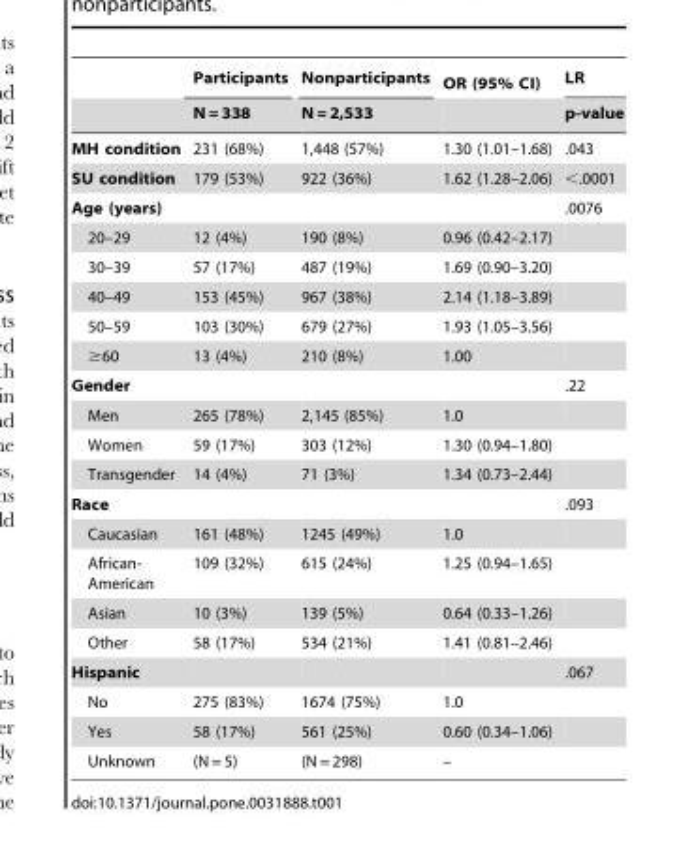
<table><thead><tr><td rowspan="2"></td><td rowspan="2">Participants N = 338</td><td rowspan="2">Nonparticipants N = 2,533</td><td rowspan="2">OR (95% CI)</td><td rowspan="2">LR p-value</td></tr><tr></tr></thead><tbody><tr><td>MH condition</td><td>231 (68%)</td><td>1,448 (57%)</td><td>1.30 (1.01–1.68)</td><td>.043</td></tr><tr><td>SU condition</td><td>179 (53%)</td><td>922 (36%)</td><td>1.62 (1.28–2.06)</td><td>&lt;.0001</td></tr><tr><td>Age (years)</td><td></td><td></td><td></td><td>.0076</td></tr><tr><td>20–29</td><td>12 (4%)</td><td>190 (8%)</td><td>0.96 (0.42–2.17)</td><td></td></tr><tr><td>30–39</td><td>57 (17%)</td><td>487 (19%)</td><td>1.69 (0.90–3.20)</td><td></td></tr><tr><td>40–49</td><td>153 (45%)</td><td>967 (38%)</td><td>2.14 (1.18–3.89)</td><td></td></tr><tr><td>50–59</td><td>103 (30%)</td><td>679 (27%)</td><td>1.93 (1.05–3.56)</td><td></td></tr><tr><td>≥60</td><td>13 (4%)</td><td>210 (8%)</td><td>1.00</td><td></td></tr><tr><td>Gender</td><td></td><td></td><td></td><td>.22</td></tr><tr><td>Men</td><td>265 (78%)</td><td>2,145 (85%)</td><td>1.0</td><td></td></tr><tr><td>Women</td><td>59 (17%)</td><td>303 (12%)</td><td>1.30 (0.94–1.80)</td><td></td></tr><tr><td>Transgender</td><td>14 (4%)</td><td>71 (3%)</td><td>1.34 (0.73–2.44)</td><td></td></tr><tr><td>Race</td><td></td><td></td><td></td><td>.093</td></tr><tr><td>Caucasian</td><td>161 (48%)</td><td>1245 (49%)</td><td>1.0</td><td></td></tr><tr><td>African- American</td><td>109 (32%)</td><td>615 (24%)</td><td>1.25 (0.94–1.65)</td><td></td></tr><tr><td>Asian</td><td>10 (3%)</td><td>139 (5%)</td><td>0.64 (0.33–1.26)</td><td></td></tr><tr><td>Other</td><td>58 (17%)</td><td>534 (21%)</td><td>1.41 (0.81–2.46)</td><td></td></tr><tr><td>Hispanic</td><td></td><td></td><td></td><td>.067</td></tr><tr><td>No</td><td>275 (83%)</td><td>1674 (75%)</td><td>1.0</td><td></td></tr><tr><td>Yes</td><td>58 (17%)</td><td>561 (25%)</td><td>0.60 (0.34–1.06)</td><td></td></tr><tr><td>Unknown</td><td>(N = 5)</td><td>(N = 298)</td><td>–</td><td></td></tr></tbody></table>